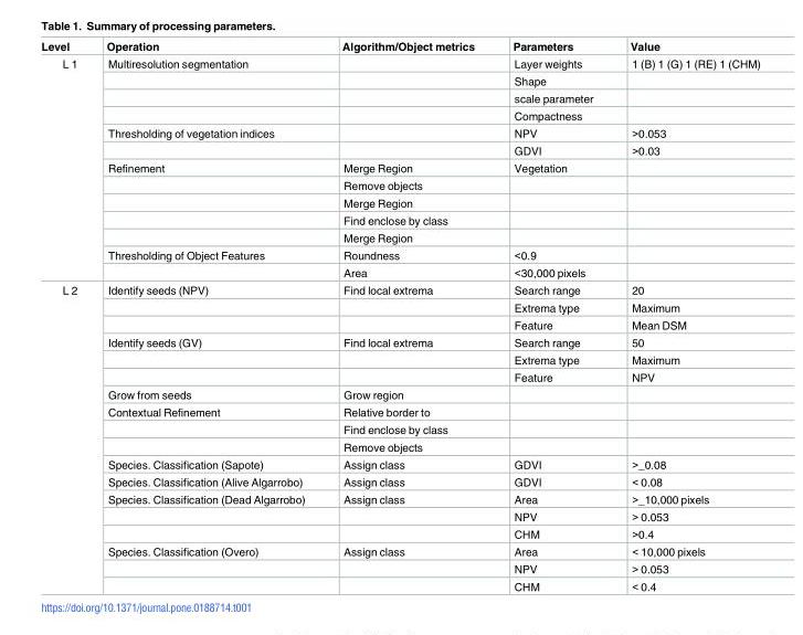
<table><thead><tr><td>Level</td><td>Operation</td><td>Algorithm/Object metrics</td><td>Parameters</td><td>Value</td></tr></thead><tbody><tr><td rowspan="13">L 1</td><td>Multiresolution segmentation</td><td></td><td>Layer weights</td><td>1 (B) 1 (G) 1 (RE) 1 (CHM)</td></tr><tr><td></td><td></td><td>Shape</td><td></td></tr><tr><td></td><td></td><td>scale parameter</td><td></td></tr><tr><td></td><td></td><td>Compactness</td><td></td></tr><tr><td>Thresholding of vegetation indices</td><td></td><td>NPV</td><td>&gt;0.053</td></tr><tr><td></td><td></td><td>GDVI</td><td>&gt;0.03</td></tr><tr><td>Refinement</td><td>Merge Region</td><td>Vegetation</td><td></td></tr><tr><td></td><td>Remove objects</td><td></td><td></td></tr><tr><td></td><td>Merge Region</td><td></td><td></td></tr><tr><td></td><td>Find enclose by class</td><td></td><td></td></tr><tr><td></td><td>Merge Region</td><td></td><td></td></tr><tr><td>Thresholding of Object Features</td><td>Roundness</td><td>&lt;0.9</td><td></td></tr><tr><td></td><td>Area</td><td>&lt;30,000 pixels</td><td></td></tr><tr><td rowspan="18">L 2</td><td>Identify seeds (NPV)</td><td>Find local extrema</td><td>Search range</td><td>20</td></tr><tr><td></td><td></td><td>Extrema type</td><td>Maximum</td></tr><tr><td></td><td></td><td>Feature</td><td>Mean DSM</td></tr><tr><td>Identify seeds (GV)</td><td>Find local extrema</td><td>Search range</td><td>50</td></tr><tr><td></td><td></td><td>Extrema type</td><td>Maximum</td></tr><tr><td></td><td></td><td>Feature</td><td>NPV</td></tr><tr><td>Grow from seeds</td><td>Grow region</td><td></td><td></td></tr><tr><td>Contextual Refinement</td><td>Relative border to</td><td></td><td></td></tr><tr><td></td><td>Find enclose by class</td><td></td><td></td></tr><tr><td></td><td>Remove objects</td><td></td><td></td></tr><tr><td>Species. Classification (Sapote)</td><td>Assign class</td><td>GDVI</td><td>&gt;_0.08</td></tr><tr><td>Species. Classification (Alive Algarrobo)</td><td>Assign class</td><td>GDVI</td><td>&lt; 0.08</td></tr><tr><td>Species. Classification (Dead Algarrobo)</td><td>Assign class</td><td>Area</td><td>&gt;_10,000 pixels</td></tr><tr><td></td><td></td><td>NPV</td><td>&gt; 0.053</td></tr><tr><td></td><td></td><td>CHM</td><td>&gt;0.4</td></tr><tr><td>Species. Classification (Overo)</td><td>Assign class</td><td>Area</td><td>&lt; 10,000 pixels</td></tr><tr><td></td><td></td><td>NPV</td><td>&gt; 0.053</td></tr><tr><td></td><td></td><td>CHM</td><td>&lt; 0.4</td></tr></tbody></table>